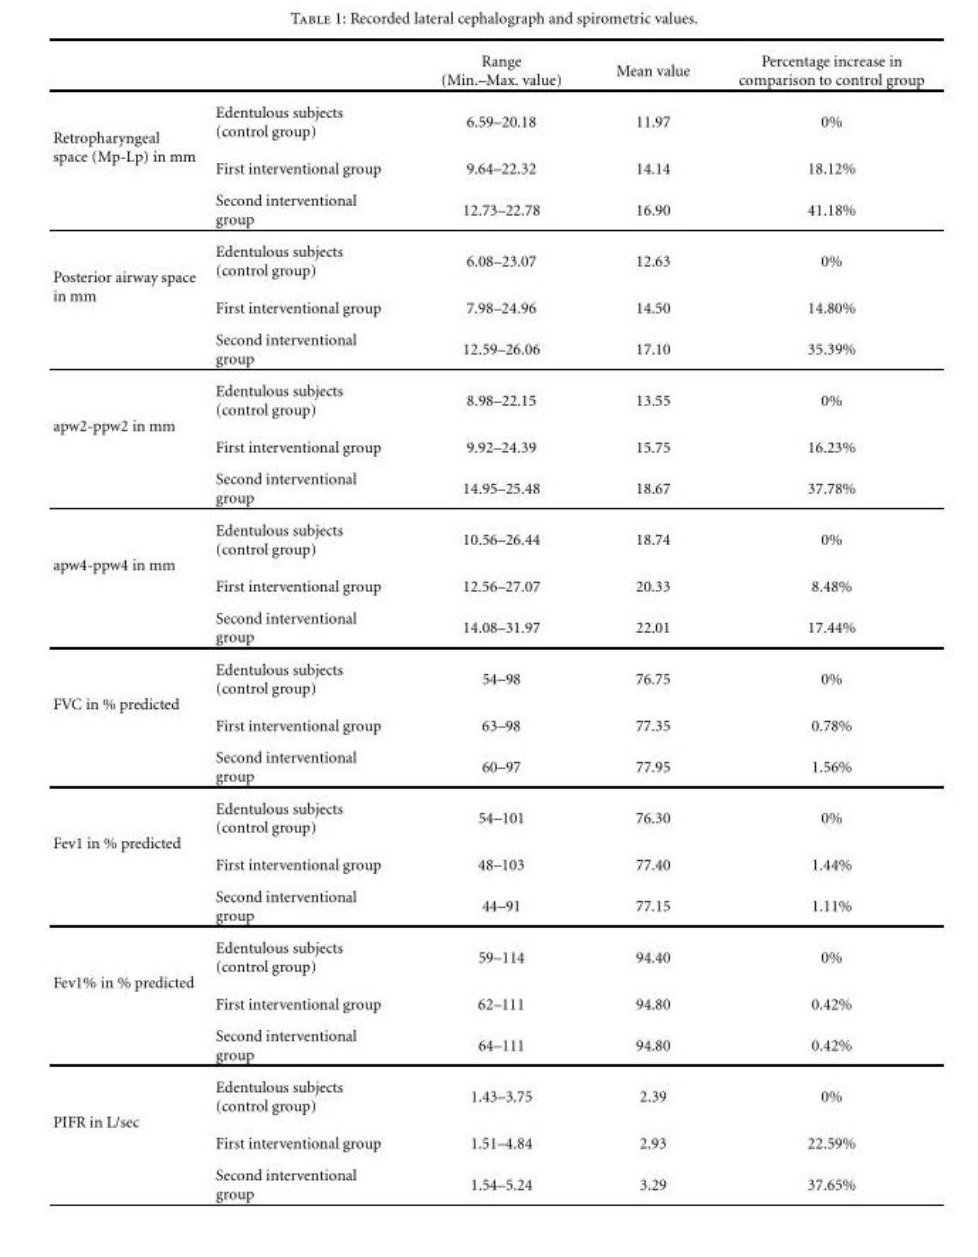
<table><thead><tr><td></td><td></td><td>Range (Min.–Max. value)</td><td>Mean value</td><td>Percentage increase in comparison to control group</td></tr></thead><tbody><tr><td rowspan="3">Retropharyngeal space (Mp-Lp) in mm</td><td>Edentulous subjects (control group)</td><td>6.59–20.18</td><td>11.97</td><td>0%</td></tr><tr><td>First interventional group</td><td>9.64–22.32</td><td>14.14</td><td>18.12%</td></tr><tr><td>Second interventional group</td><td>12.73–22.78</td><td>16.90</td><td>41.18%</td></tr><tr><td rowspan="3">Posterior airway space in mm</td><td>Edentulous subjects (control group)</td><td>6.08–23.07</td><td>12.63</td><td>0%</td></tr><tr><td>First interventional group</td><td>7.98–24.96</td><td>14.50</td><td>14.80%</td></tr><tr><td>Second interventional group</td><td>12.59–26.06</td><td>17.10</td><td>35.39%</td></tr><tr><td rowspan="3">apw2-ppw2 in mm</td><td>Edentulous subjects (control group)</td><td>8.98–22.15</td><td>13.55</td><td>0%</td></tr><tr><td>First interventional group</td><td>9.92–24.39</td><td>15.75</td><td>16.23%</td></tr><tr><td>Second interventional group</td><td>14.95–25.48</td><td>18.67</td><td>37.78%</td></tr><tr><td rowspan="3">apw4-ppw4 in mm</td><td>Edentulous subjects (control group)</td><td>10.56–26.44</td><td>18.74</td><td>0%</td></tr><tr><td>First interventional group</td><td>12.56–27.07</td><td>20.33</td><td>8.48%</td></tr><tr><td>Second interventional group</td><td>14.08–31.97</td><td>22.01</td><td>17.44%</td></tr><tr><td rowspan="3">FVC in % predicted</td><td>Edentulous subjects (control group)</td><td>54–98</td><td>76.75</td><td>0%</td></tr><tr><td>First interventional group</td><td>63–98</td><td>77.35</td><td>0.78%</td></tr><tr><td>Second interventional group</td><td>60–97</td><td>77.95</td><td>1.56%</td></tr><tr><td rowspan="3">Fev1 in % predicted</td><td>Edentulous subjects (control group)</td><td>54–101</td><td>76.30</td><td>0%</td></tr><tr><td>First interventional group</td><td>48–103</td><td>77.40</td><td>1.44%</td></tr><tr><td>Second interventional group</td><td>44–91</td><td>77.15</td><td>1.11%</td></tr><tr><td rowspan="3">Fev1% in % predicted</td><td>Edentulous subjects (control group)</td><td>59–114</td><td>94.40</td><td>0%</td></tr><tr><td>First interventional group</td><td>62–111</td><td>94.80</td><td>0.42%</td></tr><tr><td>Second interventional group</td><td>64–111</td><td>94.80</td><td>0.42%</td></tr><tr><td rowspan="3">PIFR in L/sec</td><td>Edentulous subjects (control group)</td><td>1.43–3.75</td><td>2.39</td><td>0%</td></tr><tr><td>First interventional group</td><td>1.51–4.84</td><td>2.93</td><td>22.59%</td></tr><tr><td>Second interventional group</td><td>1.54–5.24</td><td>3.29</td><td>37.65%</td></tr></tbody></table>